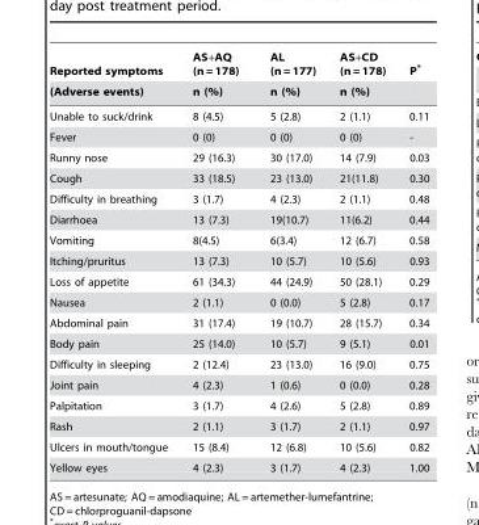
<table><thead><tr><td rowspan="2">Reported symptoms (Adverse events)</td><td rowspan="2">AS+AQ (n = 178) n (%)</td><td rowspan="2">AL (n = 177) n (%)</td><td rowspan="2">AS+CD (n = 178) n (%)</td><td rowspan="2">P*</td></tr><tr></tr></thead><tbody><tr><td>Unable to suck/drink</td><td>8 (4.5)</td><td>5 (2.8)</td><td>2 (1.1)</td><td>0.11</td></tr><tr><td>Fever</td><td>0 (0)</td><td>0 (0)</td><td>0 (0)</td><td>-</td></tr><tr><td>Runny nose</td><td>29 (16.3)</td><td>30 (17.0)</td><td>14 (7.9)</td><td>0.03</td></tr><tr><td>Cough</td><td>33 (18.5)</td><td>23 (13.0)</td><td>21(11.8)</td><td>0.30</td></tr><tr><td>Difficulty in breathing</td><td>3 (1.7)</td><td>4 (2.3)</td><td>2 (1.1)</td><td>0.48</td></tr><tr><td>Diarrhoea</td><td>13 (7.3)</td><td>19(10.7)</td><td>11(6.2)</td><td>0.44</td></tr><tr><td>Vomiting</td><td>8(4.5)</td><td>6(3.4)</td><td>12 (6.7)</td><td>0.58</td></tr><tr><td>Itching/pruritus</td><td>13 (7.3)</td><td>10 (5.7)</td><td>10 (5.6)</td><td>0.93</td></tr><tr><td>Loss of appetite</td><td>61 (34.3)</td><td>44 (24.9)</td><td>50 (28.1)</td><td>0.29</td></tr><tr><td>Nausea</td><td>2 (1.1)</td><td>0 (0.0)</td><td>5 (2.8)</td><td>0.17</td></tr><tr><td>Abdominal pain</td><td>31 (17.4)</td><td>19 (10.7)</td><td>28 (15.7)</td><td>0.34</td></tr><tr><td>Body pain</td><td>25 (14.0)</td><td>10 (5.7)</td><td>9 (5.1)</td><td>0.01</td></tr><tr><td>Difficulty in sleeping</td><td>2 (12.4)</td><td>23 (13.0)</td><td>16 (9.0)</td><td>0.75</td></tr><tr><td>Joint pain</td><td>4 (2.3)</td><td>1 (0.6)</td><td>0 (0.0)</td><td>0.28</td></tr><tr><td>Palpitation</td><td>3 (1.7)</td><td>4 (2.6)</td><td>5 (2.8)</td><td>0.89</td></tr><tr><td>Rash</td><td>2 (1.1)</td><td>3 (1.7)</td><td>2 (1.1)</td><td>0.97</td></tr><tr><td>Ulcers in mouth/tongue</td><td>15 (8.4)</td><td>12 (6.8)</td><td>10 (5.6)</td><td>0.82</td></tr><tr><td>Yellow eyes</td><td>4 (2.3)</td><td>3 (1.7)</td><td>4 (2.3)</td><td>1.00</td></tr></tbody></table>